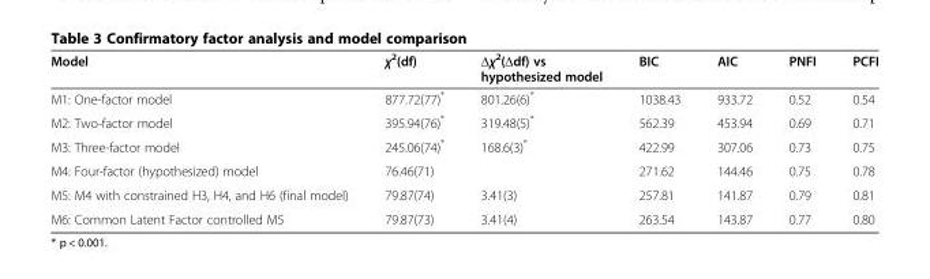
<table><thead><tr><td>Model</td><td>χ<sup>2</sup>(df)</td><td>Δχ2(Δdf) vs hypothesized model</td><td>BIC</td><td>AIC</td><td>PNFI</td><td>PCFI</td></tr></thead><tbody><tr><td>M1: One-factor model</td><td>877.72(77)*</td><td>801.26(6)*</td><td>1038.43</td><td>933.72</td><td>0.52</td><td>0.54</td></tr><tr><td>M2: Two-factor model</td><td>395.94(76)*</td><td>319.48(5)*</td><td>562.39</td><td>453.94</td><td>0.69</td><td>0.71</td></tr><tr><td>M3: Three-factor model</td><td>245.06(74)*</td><td>168.6(3)*</td><td>422.99</td><td>307.06</td><td>0.73</td><td>0.75</td></tr><tr><td>M4: Four-factor (hypothesized) model</td><td>76.46(71)</td><td></td><td>271.62</td><td>144.46</td><td>0.75</td><td>0.78</td></tr><tr><td>M5: M4 with constrained H3, H4, and H6 (final model)</td><td>79.87(74)</td><td>3.41(3)</td><td>257.81</td><td>141.87</td><td>0.79</td><td>0.81</td></tr><tr><td>M6: Common Latent Factor controlled M5</td><td>79.87(73)</td><td>3.41(4)</td><td>263.54</td><td>143.87</td><td>0.77</td><td>0.80</td></tr></tbody></table>